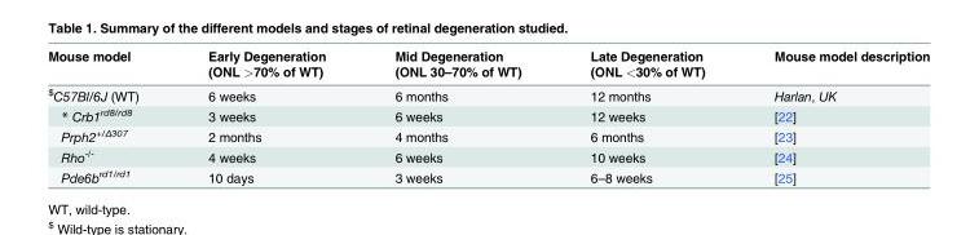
<table><thead><tr><td>Mouse model</td><td>Early Degeneration (ONL &gt;70% of WT)</td><td>Mid Degeneration (ONL 30–70% of WT)</td><td>Late Degeneration (ONL &lt;30% of WT)</td><td>Mouse model description</td></tr></thead><tbody><tr><td><sup>$</sup>C57Bl/6J (WT)</td><td>6 weeks</td><td>6 months</td><td>12 months</td><td>Harlan, UK</td></tr><tr><td>* Crb1<sup>rd8/rd8</sup></td><td>3 weeks</td><td>6 weeks</td><td>12 weeks</td><td>[22]</td></tr><tr><td>Prph2<sup>+/Δ307</sup></td><td>2 months</td><td>4 months</td><td>6 months</td><td>[23]</td></tr><tr><td>Rho<sup>-/-</sup></td><td>4 weeks</td><td>6 weeks</td><td>10 weeks</td><td>[24]</td></tr><tr><td>Pde6b<sup>rd1/rd1</sup></td><td>10 days</td><td>3 weeks</td><td>6–8 weeks</td><td>[25]</td></tr></tbody></table>